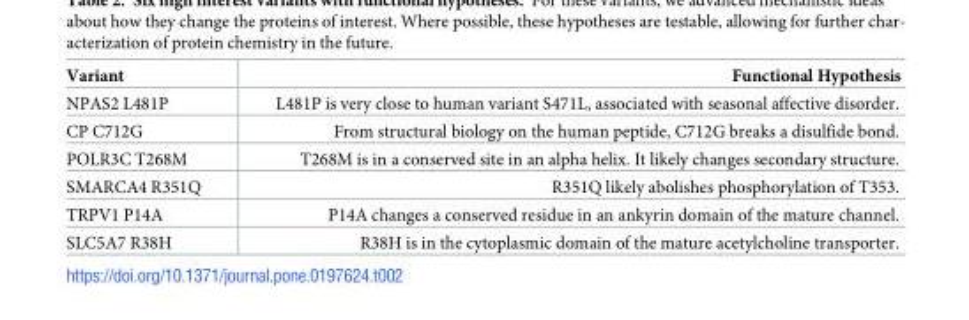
<table><thead><tr><td>Variant</td><td>Functional Hypothesis</td></tr></thead><tbody><tr><td>NPAS2 L481P</td><td>L481P is very close to human variant S471L, associated with seasonal affective disorder.</td></tr><tr><td>CP C712G</td><td>From structural biology on the human peptide, C712G breaks a disulfide bond.</td></tr><tr><td>POLR3C T268M</td><td>T268M is in a conserved site in an alpha helix. It likely changes secondary structure.</td></tr><tr><td>SMARCA4 R351Q</td><td>R351Q likely abolishes phosphorylation of T353.</td></tr><tr><td>TRPV1 P14A</td><td>P14A changes a conserved residue in an ankyrin domain of the mature channel.</td></tr><tr><td>SLC5A7 R38H</td><td>R38H is in the cytoplasmic domain of the mature acetylcholine transporter.</td></tr></tbody></table>